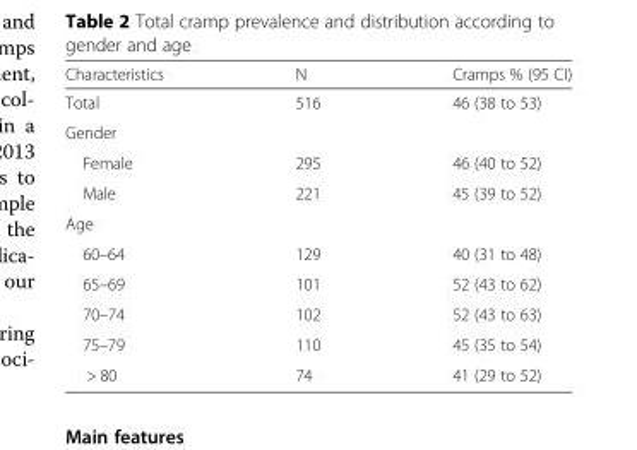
<table><thead><tr><td>Characteristics</td><td>N</td><td>Cramps % (95 CI)</td></tr></thead><tbody><tr><td>Total</td><td>516</td><td>46 (38 to 53)</td></tr><tr><td colspan="3">Gender</td></tr><tr><td>Female</td><td>295</td><td>46 (40 to 52)</td></tr><tr><td>Male</td><td>221</td><td>45 (39 to 52)</td></tr><tr><td colspan="3">Age</td></tr><tr><td>60–64</td><td>129</td><td>40 (31 to 48)</td></tr><tr><td>65–69</td><td>101</td><td>52 (43 to 62)</td></tr><tr><td>70–74</td><td>102</td><td>52 (43 to 63)</td></tr><tr><td>75–79</td><td>110</td><td>45 (35 to 54)</td></tr><tr><td>&gt; 80</td><td>74</td><td>41 (29 to 52)</td></tr></tbody></table>